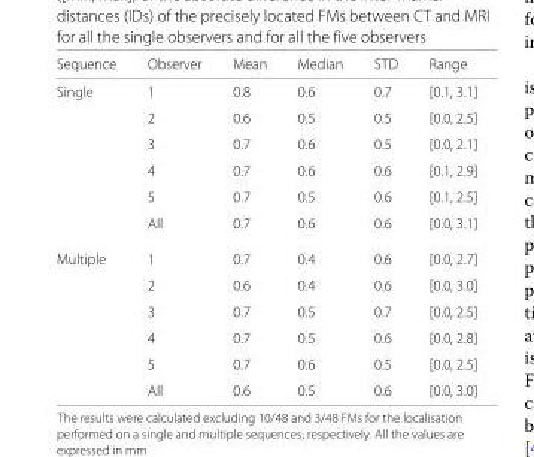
<table><thead><tr><td>Sequence</td><td>Observer</td><td>Mean</td><td>Median</td><td>STD</td><td>Range</td></tr></thead><tbody><tr><td rowspan="6">Single</td><td>1</td><td>0.8</td><td>0.6</td><td>0.7</td><td>[0.1, 3.1]</td></tr><tr><td>2</td><td>0.6</td><td>0.5</td><td>0.5</td><td>[0.0, 2.5]</td></tr><tr><td>3</td><td>0.7</td><td>0.6</td><td>0.5</td><td>[0.0, 2.1]</td></tr><tr><td>4</td><td>0.7</td><td>0.6</td><td>0.6</td><td>[0.1, 2.9]</td></tr><tr><td>5</td><td>0.7</td><td>0.5</td><td>0.6</td><td>[0.1, 2.5]</td></tr><tr><td>All</td><td>0.7</td><td>0.6</td><td>0.6</td><td>[0.0, 3.1]</td></tr><tr><td rowspan="6">Multiple</td><td>1</td><td>0.7</td><td>0.4</td><td>0.6</td><td>[0.0, 2.7]</td></tr><tr><td>2</td><td>0.6</td><td>0.4</td><td>0.6</td><td>[0.0, 3.0]</td></tr><tr><td>3</td><td>0.7</td><td>0.5</td><td>0.7</td><td>[0.0, 2.5]</td></tr><tr><td>4</td><td>0.7</td><td>0.5</td><td>0.6</td><td>[0.0, 2.8]</td></tr><tr><td>5</td><td>0.7</td><td>0.6</td><td>0.5</td><td>[0.0, 2.5]</td></tr><tr><td>All</td><td>0.6</td><td>0.5</td><td>0.6</td><td>[0.0, 3.0]</td></tr></tbody></table>